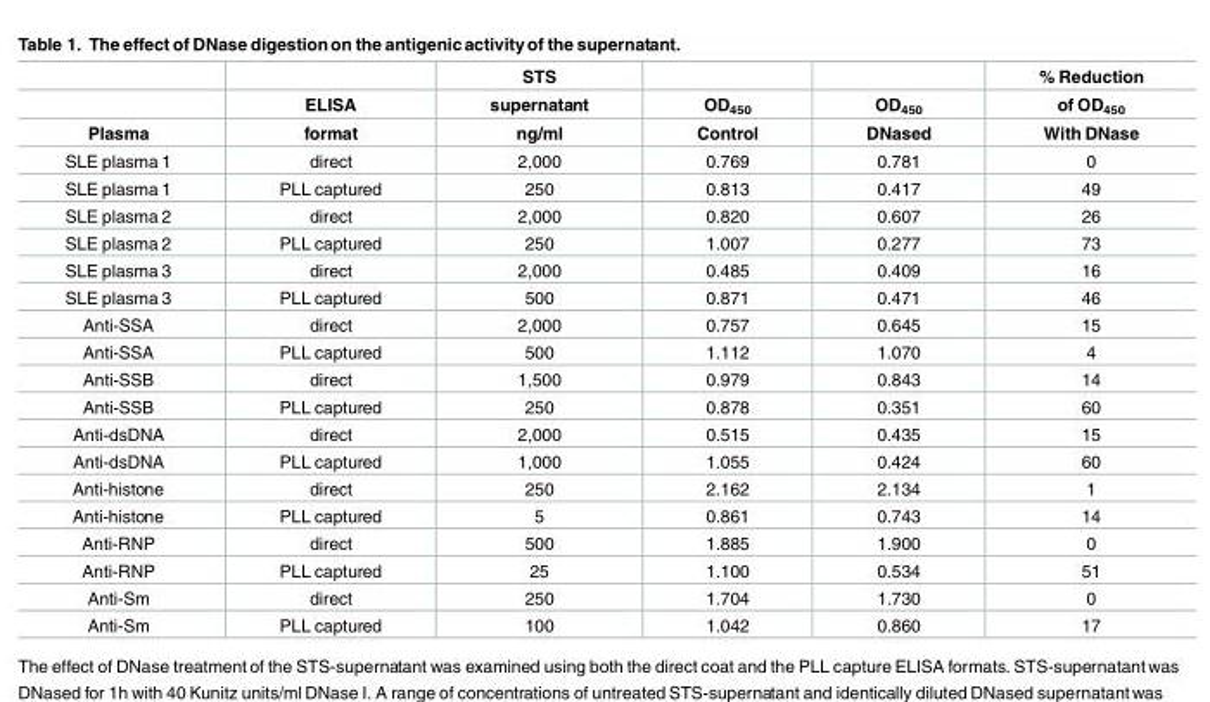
<table><thead><tr><td rowspan="3">Plasma</td><td rowspan="3">ELISA format</td><td rowspan="3">STS supernatant ng/ml</td><td rowspan="3">OD<sub>450</sub> Control</td><td rowspan="3">OD<sub>450</sub> DNased</td><td rowspan="3">% Reduction of OD<sub>450</sub> With DNase</td></tr><tr></tr><tr></tr></thead><tbody><tr><td>SLE plasma 1</td><td>direct</td><td>2,000</td><td>0.769</td><td>0.781</td><td>0</td></tr><tr><td>SLE plasma 1</td><td>PLL captured</td><td>250</td><td>0.813</td><td>0.417</td><td>49</td></tr><tr><td>SLE plasma 2</td><td>direct</td><td>2,000</td><td>0.820</td><td>0.607</td><td>26</td></tr><tr><td>SLE plasma 2</td><td>PLL captured</td><td>250</td><td>1.007</td><td>0.277</td><td>73</td></tr><tr><td>SLE plasma 3</td><td>direct</td><td>2,000</td><td>0.485</td><td>0.409</td><td>16</td></tr><tr><td>SLE plasma 3</td><td>PLL captured</td><td>500</td><td>0.871</td><td>0.471</td><td>46</td></tr><tr><td>Anti-SSA</td><td>direct</td><td>2,000</td><td>0.757</td><td>0.645</td><td>15</td></tr><tr><td>Anti-SSA</td><td>PLL captured</td><td>500</td><td>1.112</td><td>1.070</td><td>4</td></tr><tr><td>Anti-SSB</td><td>direct</td><td>1,500</td><td>0.979</td><td>0.843</td><td>14</td></tr><tr><td>Anti-SSB</td><td>PLL captured</td><td>250</td><td>0.878</td><td>0.351</td><td>60</td></tr><tr><td>Anti-dsDNA</td><td>direct</td><td>2,000</td><td>0.515</td><td>0.435</td><td>15</td></tr><tr><td>Anti-dsDNA</td><td>PLL captured</td><td>1,000</td><td>1.055</td><td>0.424</td><td>60</td></tr><tr><td>Anti-histone</td><td>direct</td><td>250</td><td>2.162</td><td>2.134</td><td>1</td></tr><tr><td>Anti-histone</td><td>PLL captured</td><td>5</td><td>0.861</td><td>0.743</td><td>14</td></tr><tr><td>Anti-RNP</td><td>direct</td><td>500</td><td>1.885</td><td>1.900</td><td>0</td></tr><tr><td>Anti-RNP</td><td>PLL captured</td><td>25</td><td>1.100</td><td>0.534</td><td>51</td></tr><tr><td>Anti-Sm</td><td>direct</td><td>250</td><td>1.704</td><td>1.730</td><td>0</td></tr><tr><td>Anti-Sm</td><td>PLL captured</td><td>100</td><td>1.042</td><td>0.860</td><td>17</td></tr></tbody></table>